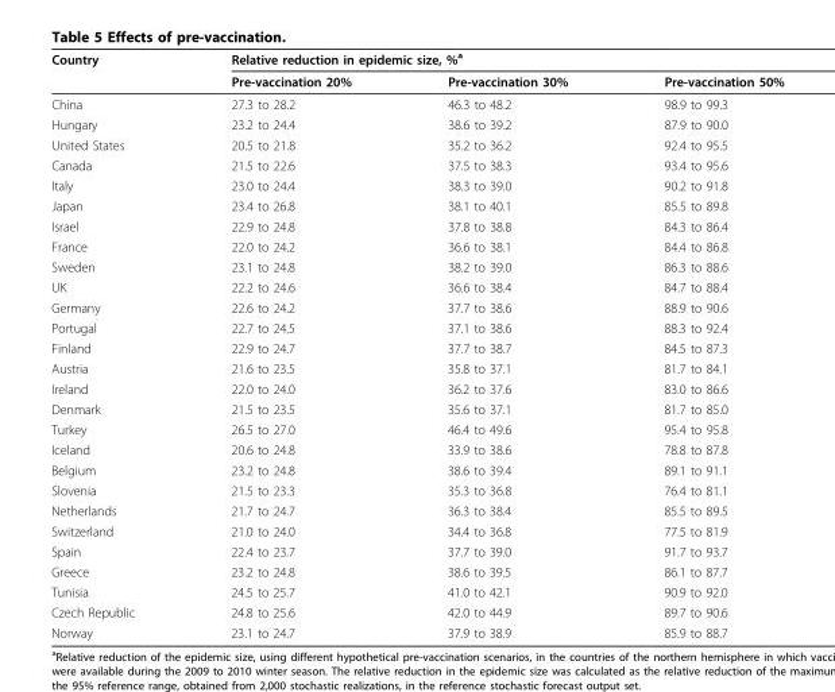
<table><thead><tr><td rowspan="2">Country</td><td colspan="3">Relative reduction in epidemic size, %<sup>a</sup></td></tr><tr><td>Pre-vaccination 20%</td><td>Pre-vaccination 30%</td><td>Pre-vaccination 50%</td></tr></thead><tbody><tr><td>China</td><td>27.3 to 28.2</td><td>46.3 to 48.2</td><td>98.9 to 99.3</td></tr><tr><td>Hungary</td><td>23.2 to 24.4</td><td>38.6 to 39.2</td><td>87.9 to 90.0</td></tr><tr><td>United States</td><td>20.5 to 21.8</td><td>35.2 to 36.2</td><td>92.4 to 95.5</td></tr><tr><td>Canada</td><td>21.5 to 22.6</td><td>37.5 to 38.3</td><td>93.4 to 95.6</td></tr><tr><td>Italy</td><td>23.0 to 24.4</td><td>38.3 to 39.0</td><td>90.2 to 91.8</td></tr><tr><td>Japan</td><td>23.4 to 26.8</td><td>38.1 to 40.1</td><td>85.5 to 89.8</td></tr><tr><td>Israel</td><td>22.9 to 24.8</td><td>37.8 to 38.8</td><td>84.3 to 86.4</td></tr><tr><td>France</td><td>22.0 to 24.2</td><td>36.6 to 38.1</td><td>84.4 to 86.8</td></tr><tr><td>Sweden</td><td>23.1 to 24.8</td><td>38.2 to 39.0</td><td>86.3 to 88.6</td></tr><tr><td>UK</td><td>22.2 to 24.6</td><td>36.6 to 38.4</td><td>84.7 to 88.4</td></tr><tr><td>Germany</td><td>22.6 to 24.2</td><td>37.7 to 38.6</td><td>88.9 to 90.6</td></tr><tr><td>Portugal</td><td>22.7 to 24.5</td><td>37.1 to 38.6</td><td>88.3 to 92.4</td></tr><tr><td>Finland</td><td>22.9 to 24.7</td><td>37.7 to 38.7</td><td>84.5 to 87.3</td></tr><tr><td>Austria</td><td>21.6 to 23.5</td><td>35.8 to 37.1</td><td>81.7 to 84.1</td></tr><tr><td>Ireland</td><td>22.0 to 24.0</td><td>36.2 to 37.6</td><td>83.0 to 86.6</td></tr><tr><td>Denmark</td><td>21.5 to 23.5</td><td>35.6 to 37.1</td><td>81.7 to 85.0</td></tr><tr><td>Turkey</td><td>26.5 to 27.0</td><td>46.4 to 49.6</td><td>95.4 to 95.8</td></tr><tr><td>Iceland</td><td>20.6 to 24.8</td><td>33.9 to 38.6</td><td>78.8 to 87.8</td></tr><tr><td>Belgium</td><td>23.2 to 24.8</td><td>38.6 to 39.4</td><td>89.1 to 91.1</td></tr><tr><td>Slovenia</td><td>21.5 to 23.3</td><td>35.3 to 36.8</td><td>76.4 to 81.1</td></tr><tr><td>Netherlands</td><td>21.7 to 24.7</td><td>36.3 to 38.4</td><td>85.5 to 89.5</td></tr><tr><td>Switzerland</td><td>21.0 to 24.0</td><td>34.4 to 36.8</td><td>77.5 to 81.9</td></tr><tr><td>Spain</td><td>22.4 to 23.7</td><td>37.7 to 39.0</td><td>91.7 to 93.7</td></tr><tr><td>Greece</td><td>23.2 to 24.8</td><td>38.6 to 39.5</td><td>86.1 to 87.7</td></tr><tr><td>Tunisia</td><td>24.5 to 25.7</td><td>41.0 to 42.1</td><td>90.9 to 92.0</td></tr><tr><td>Czech Republic</td><td>24.8 to 25.6</td><td>42.0 to 44.9</td><td>89.7 to 90.6</td></tr><tr><td>Norway</td><td>23.1 to 24.7</td><td>37.9 to 38.9</td><td>85.9 to 88.7</td></tr></tbody></table>